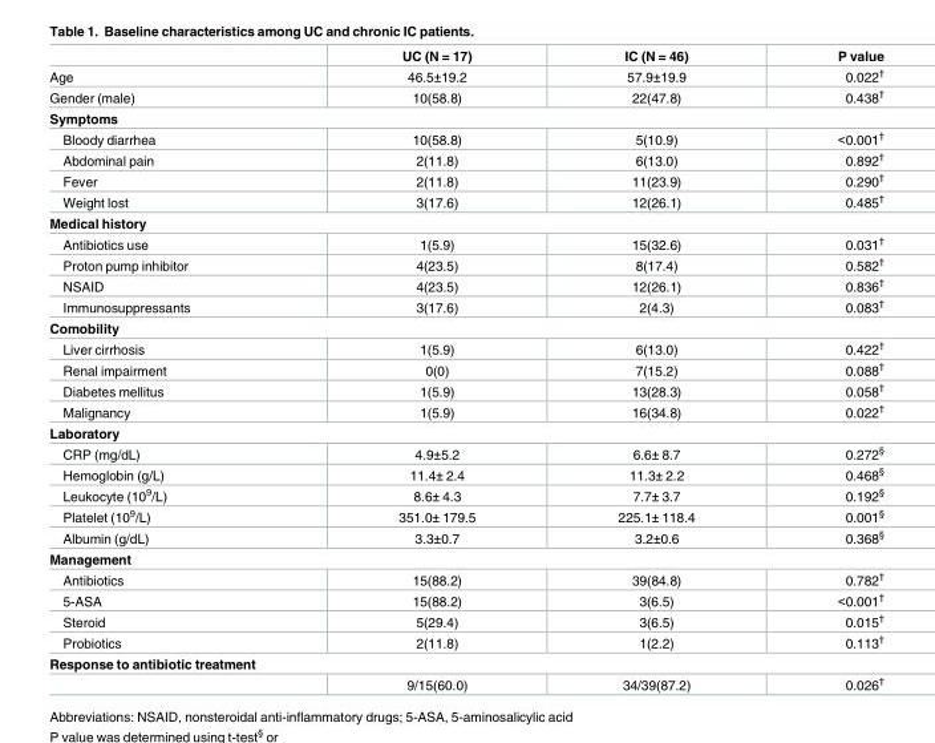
<table><thead><tr><td></td><td>UC (N = 17)</td><td>IC (N = 46)</td><td>P value</td></tr></thead><tbody><tr><td>Age</td><td>46.5±19.2</td><td>57.9±19.9</td><td>0.022<sup>†</sup></td></tr><tr><td>Gender (male)</td><td>10(58.8)</td><td>22(47.8)</td><td>0.438<sup>†</sup></td></tr><tr><td colspan="4">Symptoms</td></tr><tr><td>Bloody diarrhea</td><td>10(58.8)</td><td>5(10.9)</td><td>&lt;0.001<sup>†</sup></td></tr><tr><td>Abdominal pain</td><td>2(11.8)</td><td>6(13.0)</td><td>0.892<sup>†</sup></td></tr><tr><td>Fever</td><td>2(11.8)</td><td>11(23.9)</td><td>0.290<sup>†</sup></td></tr><tr><td>Weight lost</td><td>3(17.6)</td><td>12(26.1)</td><td>0.485<sup>†</sup></td></tr><tr><td colspan="4">Medical history</td></tr><tr><td>Antibiotics use</td><td>1(5.9)</td><td>15(32.6)</td><td>0.031<sup>†</sup></td></tr><tr><td>Proton pump inhibitor</td><td>4(23.5)</td><td>8(17.4)</td><td>0.582<sup>†</sup></td></tr><tr><td>NSAID</td><td>4(23.5)</td><td>12(26.1)</td><td>0.836<sup>†</sup></td></tr><tr><td>Immunosuppressants</td><td>3(17.6)</td><td>2(4.3)</td><td>0.083<sup>†</sup></td></tr><tr><td colspan="4">Comobility</td></tr><tr><td>Liver cirrhosis</td><td>1(5.9)</td><td>6(13.0)</td><td>0.422<sup>†</sup></td></tr><tr><td>Renal impairment</td><td>0(0)</td><td>7(15.2)</td><td>0.088<sup>†</sup></td></tr><tr><td>Diabetes mellitus</td><td>1(5.9)</td><td>13(28.3)</td><td>0.058<sup>†</sup></td></tr><tr><td>Malignancy</td><td>1(5.9)</td><td>16(34.8)</td><td>0.022<sup>†</sup></td></tr><tr><td colspan="4">Laboratory</td></tr><tr><td>CRP (mg/dL)</td><td>4.9±5.2</td><td>6.6± 8.7</td><td>0.272<sup>§</sup></td></tr><tr><td>Hemoglobin (g/L)</td><td>11.4± 2.4</td><td>11.3± 2.2</td><td>0.468<sup>§</sup></td></tr><tr><td>Leukocyte (10<sup>9</sup>/L)</td><td>8.6± 4.3</td><td>7.7± 3.7</td><td>0.192<sup>§</sup></td></tr><tr><td>Platelet (10<sup>9</sup>/L)</td><td>351.0± 179.5</td><td>225.1± 118.4</td><td>0.001<sup>§</sup></td></tr><tr><td>Albumin (g/dL)</td><td>3.3±0.7</td><td>3.2±0.6</td><td>0.368<sup>§</sup></td></tr><tr><td colspan="4">Management</td></tr><tr><td>Antibiotics</td><td>15(88.2)</td><td>39(84.8)</td><td>0.782<sup>†</sup></td></tr><tr><td>5-ASA</td><td>15(88.2)</td><td>3(6.5)</td><td>&lt;0.001<sup>†</sup></td></tr><tr><td>Steroid</td><td>5(29.4)</td><td>3(6.5)</td><td>0.015<sup>†</sup></td></tr><tr><td>Probiotics</td><td>2(11.8)</td><td>1(2.2)</td><td>0.113<sup>†</sup></td></tr><tr><td colspan="4">Response to antibiotic treatment</td></tr><tr><td></td><td>9/15(60.0)</td><td>34/39(87.2)</td><td>0.026<sup>†</sup></td></tr></tbody></table>